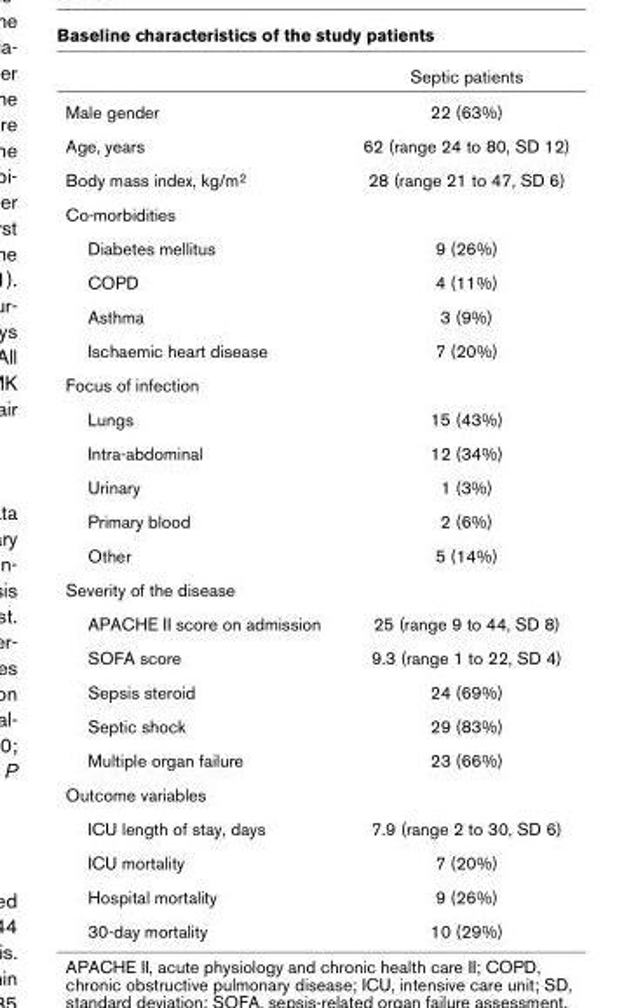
<table><thead><tr><td></td><td>Septic patients</td></tr></thead><tbody><tr><td>Male gender</td><td>22 (63%)</td></tr><tr><td>Age, years</td><td>62 (range 24 to 80, SD 12)</td></tr><tr><td>Body mass index, kg/m<sup>2</sup></td><td>28 (range 21 to 47, SD 6)</td></tr><tr><td colspan="2">Co-morbidities</td></tr><tr><td>Diabetes mellitus</td><td>9 (26%)</td></tr><tr><td>COPD</td><td>4 (11%)</td></tr><tr><td>Asthma</td><td>3 (9%)</td></tr><tr><td>Ischaemic heart disease</td><td>7 (20%)</td></tr><tr><td colspan="2">Focus of infection</td></tr><tr><td>Lungs</td><td>15 (43%)</td></tr><tr><td>Intra-abdominal</td><td>12 (34%)</td></tr><tr><td>Urinary</td><td>1 (3%)</td></tr><tr><td>Primary blood</td><td>2 (6%)</td></tr><tr><td>Other</td><td>5 (14%)</td></tr><tr><td colspan="2">Severity of the disease</td></tr><tr><td>APACHE II score on admission</td><td>25 (range 9 to 44, SD 8)</td></tr><tr><td>SOFA score</td><td>9.3 (range 1 to 22, SD 4)</td></tr><tr><td>Sepsis steroid</td><td>24 (69%)</td></tr><tr><td>Septic shock</td><td>29 (83%)</td></tr><tr><td>Multiple organ failure</td><td>23 (66%)</td></tr><tr><td colspan="2">Outcome variables</td></tr><tr><td>ICU length of stay, days</td><td>7.9 (range 2 to 30, SD 6)</td></tr><tr><td>ICU mortality</td><td>7 (20%)</td></tr><tr><td>Hospital mortality</td><td>9 (26%)</td></tr><tr><td>30-day mortality</td><td>10 (29%)</td></tr></tbody></table>